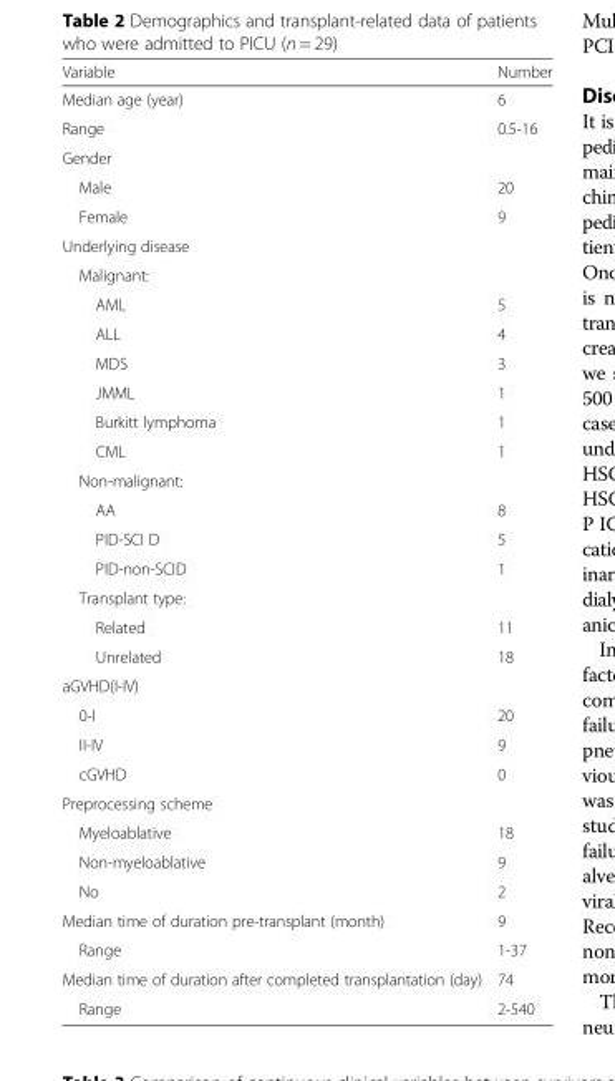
<table><thead><tr><td>Variable</td><td>Number</td></tr></thead><tbody><tr><td>Median age (year)</td><td>6</td></tr><tr><td>Range</td><td>0.5-16</td></tr><tr><td colspan="2">Gender</td></tr><tr><td>Male</td><td>20</td></tr><tr><td>Female</td><td>9</td></tr><tr><td colspan="2">Underlying disease</td></tr><tr><td colspan="2">Malignant:</td></tr><tr><td>AML</td><td>5</td></tr><tr><td>ALL</td><td>4</td></tr><tr><td>MDS</td><td>3</td></tr><tr><td>JMML</td><td>1</td></tr><tr><td>Burkitt lymphoma</td><td>1</td></tr><tr><td>CML</td><td>1</td></tr><tr><td colspan="2">Non-malignant:</td></tr><tr><td>AA</td><td>8</td></tr><tr><td>PID-SCI D</td><td>5</td></tr><tr><td>PID-non-SCID</td><td>1</td></tr><tr><td colspan="2">Transplant type:</td></tr><tr><td>Related</td><td>11</td></tr><tr><td>Unrelated</td><td>18</td></tr><tr><td colspan="2">aGVHD(I-IV)</td></tr><tr><td>0-I</td><td>20</td></tr><tr><td>II-IV</td><td>9</td></tr><tr><td>cGVHD</td><td>0</td></tr><tr><td colspan="2">Preprocessing scheme</td></tr><tr><td>Myeloablative</td><td>18</td></tr><tr><td>Non-myeloablative</td><td>9</td></tr><tr><td>No</td><td>2</td></tr><tr><td>Median time of duration pre-transplant (month)</td><td>9</td></tr><tr><td>Range</td><td>1-37</td></tr><tr><td>Median time of duration after completed transplantation (day)</td><td>74</td></tr><tr><td>Range</td><td>2-540</td></tr></tbody></table>